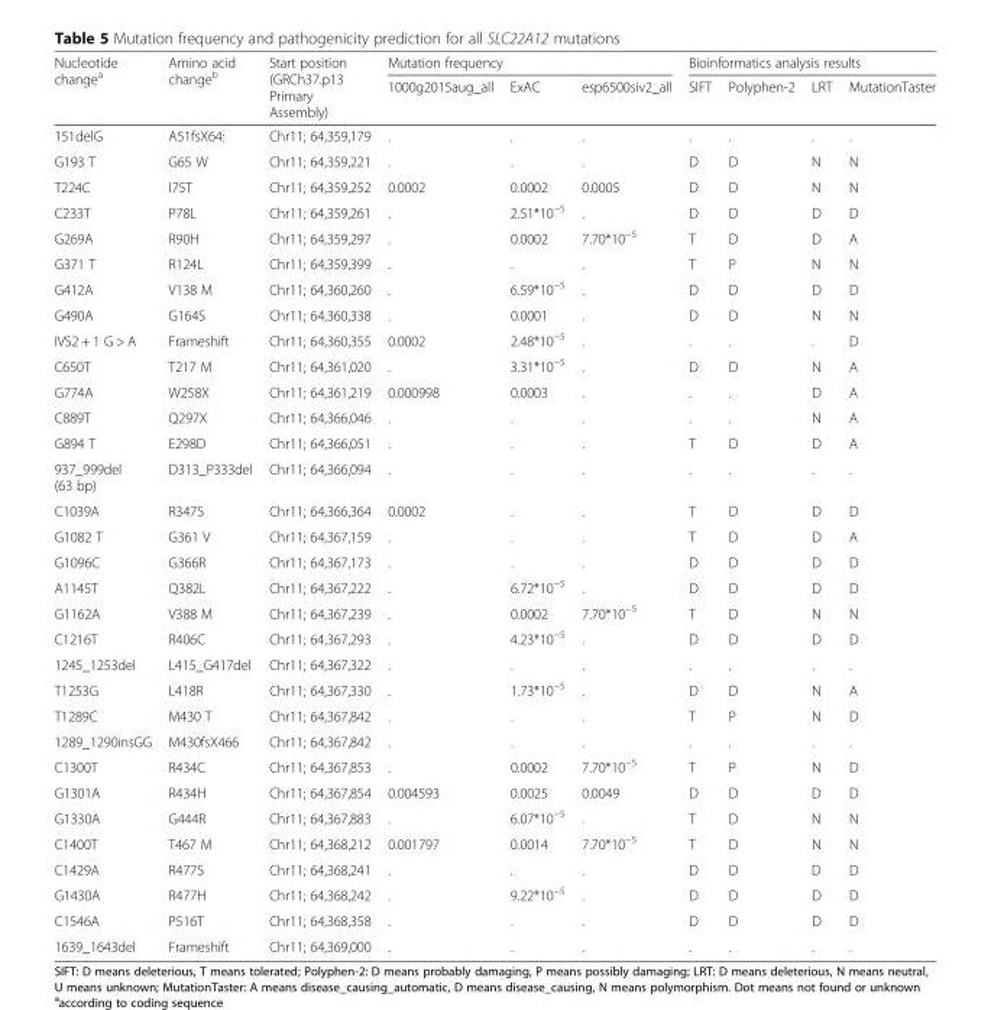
<table><thead><tr><td rowspan="2">Nucleotide change<sup>a</sup></td><td rowspan="2">Amino acid change<sup>b</sup></td><td rowspan="2">Start position (GRCh37.p13 Primary Assembly)</td><td colspan="3">Mutation frequency</td><td colspan="4">Bioinformatics analysis results</td></tr><tr><td>1000g2015aug_all</td><td>ExAC</td><td>esp6500siv2_all</td><td>SIFT</td><td>Polyphen-2</td><td>LRT</td><td>MutationTaster</td></tr></thead><tbody><tr><td>151delG</td><td>A51fsX64:</td><td>Chr11; 64,359,179</td><td>.</td><td>.</td><td>.</td><td>.</td><td>.</td><td>.</td><td>.</td></tr><tr><td>G193 T</td><td>G65 W</td><td>Chr11; 64,359,221</td><td>.</td><td>.</td><td>.</td><td>D</td><td>D</td><td>N</td><td>N</td></tr><tr><td>T224C</td><td>I75T</td><td>Chr11; 64,359,252</td><td>0.0002</td><td>0.0002</td><td>0.0005</td><td>D</td><td>D</td><td>N</td><td>N</td></tr><tr><td>C233T</td><td>P78L</td><td>Chr11; 64,359,261</td><td>.</td><td>2.51*10<sup>−5</sup></td><td>.</td><td>D</td><td>D</td><td>D</td><td>D</td></tr><tr><td>G269A</td><td>R90H</td><td>Chr11; 64,359,297</td><td>.</td><td>0.0002</td><td>7.70*10<sup>−5</sup></td><td>T</td><td>D</td><td>D</td><td>A</td></tr><tr><td>G371 T</td><td>R124L</td><td>Chr11; 64,359,399</td><td>.</td><td>.</td><td>.</td><td>T</td><td>P</td><td>N</td><td>N</td></tr><tr><td>G412A</td><td>V138 M</td><td>Chr11; 64,360,260</td><td>.</td><td>6.59*10<sup>−5</sup></td><td>.</td><td>D</td><td>D</td><td>D</td><td>D</td></tr><tr><td>G490A</td><td>G164S</td><td>Chr11; 64,360,338</td><td>.</td><td>0.0001</td><td>.</td><td>D</td><td>D</td><td>N</td><td>N</td></tr><tr><td>IVS2 + 1 G &gt; A</td><td>Frameshift</td><td>Chr11; 64,360,355</td><td>0.0002</td><td>2.48*10<sup>−5</sup></td><td>.</td><td>.</td><td>.</td><td>.</td><td>D</td></tr><tr><td>C650T</td><td>T217 M</td><td>Chr11; 64,361,020</td><td>.</td><td>3.31*10<sup>−5</sup></td><td>.</td><td>D</td><td>D</td><td>N</td><td>A</td></tr><tr><td>G774A</td><td>W258X</td><td>Chr11; 64,361,219</td><td>0.000998</td><td>0.0003</td><td>.</td><td>.</td><td>.</td><td>D</td><td>A</td></tr><tr><td>C889T</td><td>Q297X</td><td>Chr11; 64,366,046</td><td>.</td><td>.</td><td>.</td><td>.</td><td>.</td><td>N</td><td>A</td></tr><tr><td>G894 T</td><td>E298D</td><td>Chr11; 64,366,051</td><td>.</td><td>.</td><td>.</td><td>T</td><td>D</td><td>D</td><td>A</td></tr><tr><td>937_999del (63 bp)</td><td>D313_P333del</td><td>Chr11; 64,366,094</td><td>.</td><td>.</td><td>.</td><td>.</td><td>.</td><td>.</td><td>.</td></tr><tr><td>C1039A</td><td>R347S</td><td>Chr11; 64,366,364</td><td>0.0002</td><td>.</td><td>.</td><td>T</td><td>D</td><td>D</td><td>D</td></tr><tr><td>G1082 T</td><td>G361 V</td><td>Chr11; 64,367,159</td><td>.</td><td>.</td><td>.</td><td>T</td><td>D</td><td>D</td><td>A</td></tr><tr><td>G1096C</td><td>G366R</td><td>Chr11; 64,367,173</td><td>.</td><td>.</td><td>.</td><td>D</td><td>D</td><td>D</td><td>D</td></tr><tr><td>A1145T</td><td>Q382L</td><td>Chr11; 64,367,222</td><td>.</td><td>6.72*10<sup>−5</sup></td><td>.</td><td>D</td><td>D</td><td>D</td><td>D</td></tr><tr><td>G1162A</td><td>V388 M</td><td>Chr11; 64,367,239</td><td>.</td><td>0.0002</td><td>7.70*10<sup>−5</sup></td><td>T</td><td>D</td><td>N</td><td>N</td></tr><tr><td>C1216T</td><td>R406C</td><td>Chr11; 64,367,293</td><td>.</td><td>4.23*10<sup>−5</sup></td><td>.</td><td>D</td><td>D</td><td>D</td><td>D</td></tr><tr><td>1245_1253del</td><td>L415_G417del</td><td>Chr11; 64,367,322</td><td>.</td><td>.</td><td>.</td><td>.</td><td>.</td><td>.</td><td>.</td></tr><tr><td>T1253G</td><td>L418R</td><td>Chr11; 64,367,330</td><td>.</td><td>1.73*10<sup>−5</sup></td><td>.</td><td>D</td><td>D</td><td>N</td><td>A</td></tr><tr><td>T1289C</td><td>M430 T</td><td>Chr11; 64,367,842</td><td>.</td><td>.</td><td>.</td><td>T</td><td>P</td><td>N</td><td>D</td></tr><tr><td>1289_1290insGG</td><td>M430fsX466</td><td>Chr11; 64,367,842</td><td>.</td><td>.</td><td>.</td><td>.</td><td>.</td><td>.</td><td>.</td></tr><tr><td>C1300T</td><td>R434C</td><td>Chr11; 64,367,853</td><td>.</td><td>0.0002</td><td>7.70*10<sup>−5</sup></td><td>T</td><td>P</td><td>N</td><td>D</td></tr><tr><td>G1301A</td><td>R434H</td><td>Chr11; 64,367,854</td><td>0.004593</td><td>0.0025</td><td>0.0049</td><td>D</td><td>D</td><td>D</td><td>D</td></tr><tr><td>G1330A</td><td>G444R</td><td>Chr11; 64,367,883</td><td>.</td><td>6.07*10<sup>−5</sup></td><td>.</td><td>T</td><td>D</td><td>N</td><td>N</td></tr><tr><td>C1400T</td><td>T467 M</td><td>Chr11; 64,368,212</td><td>0.001797</td><td>0.0014</td><td>7.70*10<sup>−5</sup></td><td>T</td><td>D</td><td>N</td><td>N</td></tr><tr><td>C1429A</td><td>R477S</td><td>Chr11; 64,368,241</td><td>.</td><td>.</td><td>.</td><td>D</td><td>D</td><td>D</td><td>D</td></tr><tr><td>G1430A</td><td>R477H</td><td>Chr11; 64,368,242</td><td>.</td><td>9.22*10<sup>−5</sup></td><td>.</td><td>D</td><td>D</td><td>D</td><td>D</td></tr><tr><td>C1546A</td><td>P516T</td><td>Chr11; 64,368,358</td><td>.</td><td>.</td><td>.</td><td>D</td><td>D</td><td>D</td><td>D</td></tr><tr><td>1639_1643del</td><td>Frameshift</td><td>Chr11; 64,369,000</td><td>.</td><td>.</td><td>.</td><td>.</td><td>.</td><td>.</td><td>.</td></tr></tbody></table>